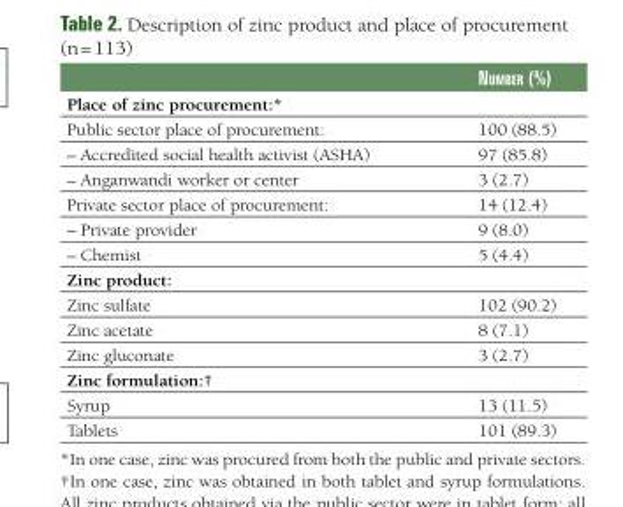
<table><thead><tr><td></td><td>Number (%)</td></tr></thead><tbody><tr><td colspan="2">Place of zinc procurement:*</td></tr><tr><td>Public sector place of procurement:</td><td>100 (88.5)</td></tr><tr><td>– Accredited social health activist (ASHA)</td><td>97 (85.8)</td></tr><tr><td>– Anganwandi worker or center</td><td>3 (2.7)</td></tr><tr><td>Private sector place of procurement:</td><td>14 (12.4)</td></tr><tr><td>– Private provider</td><td>9 (8.0)</td></tr><tr><td>– Chemist</td><td>5 (4.4)</td></tr><tr><td colspan="2">Zinc product:</td></tr><tr><td>Zinc sulfate</td><td>102 (90.2)</td></tr><tr><td>Zinc acetate</td><td>8 (7.1)</td></tr><tr><td>Zinc gluconate</td><td>3 (2.7)</td></tr><tr><td colspan="2">Zinc formulation:†</td></tr><tr><td>Syrup</td><td>13 (11.5)</td></tr><tr><td>Tablets</td><td>101 (89.3)</td></tr></tbody></table>